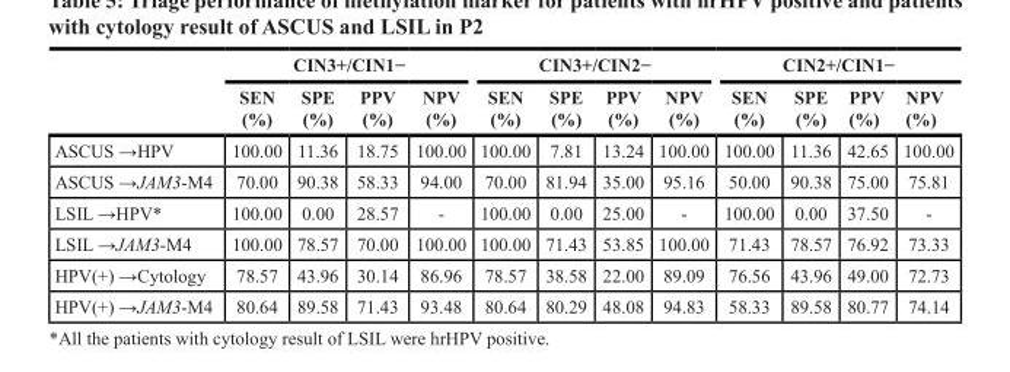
<table><thead><tr><td rowspan="2"></td><td colspan="4">CIN3+/CIN1−</td><td colspan="4">CIN3+/CIN2−</td><td colspan="4">CIN2+/CIN1−</td></tr><tr><td>SEN (%)</td><td>SPE (%)</td><td>PPV (%)</td><td>NPV (%)</td><td>SEN (%)</td><td>SPE (%)</td><td>PPV (%)</td><td>NPV (%)</td><td>SEN (%)</td><td>SPE (%)</td><td>PPV (%)</td><td>NPV (%)</td></tr></thead><tbody><tr><td>ASCUS →HPV</td><td>100.00</td><td>11.36</td><td>18.75</td><td>100.00</td><td>100.00</td><td>7.81</td><td>13.24</td><td>100.00</td><td>100.00</td><td>11.36</td><td>42.65</td><td>100.00</td></tr><tr><td>ASCUS →JAM3-M4</td><td>70.00</td><td>90.38</td><td>58.33</td><td>94.00</td><td>70.00</td><td>81.94</td><td>35.00</td><td>95.16</td><td>50.00</td><td>90.38</td><td>75.00</td><td>75.81</td></tr><tr><td>LSIL →HPV*</td><td>100.00</td><td>0.00</td><td>28.57</td><td>-</td><td>100.00</td><td>0.00</td><td>25.00</td><td>-</td><td>100.00</td><td>0.00</td><td>37.50</td><td>-</td></tr><tr><td>LSIL →JAM3-M4</td><td>100.00</td><td>78.57</td><td>70.00</td><td>100.00</td><td>100.00</td><td>71.43</td><td>53.85</td><td>100.00</td><td>71.43</td><td>78.57</td><td>76.92</td><td>73.33</td></tr><tr><td>HPV(+) →Cytology</td><td>78.57</td><td>43.96</td><td>30.14</td><td>86.96</td><td>78.57</td><td>38.58</td><td>22.00</td><td>89.09</td><td>76.56</td><td>43.96</td><td>49.00</td><td>72.73</td></tr><tr><td>HPV(+) →JAM3-M4</td><td>80.64</td><td>89.58</td><td>71.43</td><td>93.48</td><td>80.64</td><td>80.29</td><td>48.08</td><td>94.83</td><td>58.33</td><td>89.58</td><td>80.77</td><td>74.14</td></tr></tbody></table>